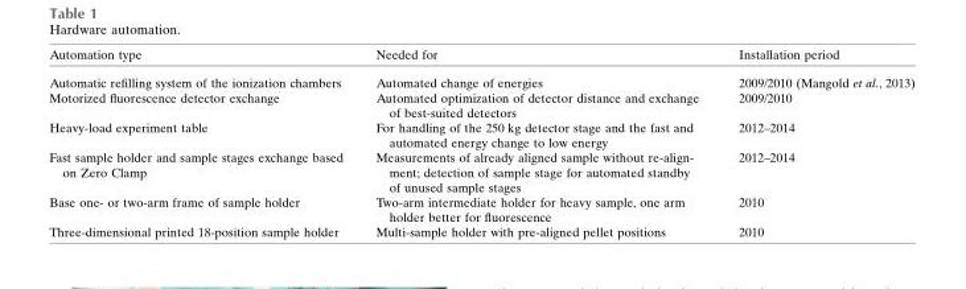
<table><thead><tr><td>Automation type</td><td>Needed for</td><td>Installation period</td></tr></thead><tbody><tr><td>Automatic refilling system of the ionization chambers</td><td>Automated change of energies</td><td>2009/2010 (Mangold et al., 2013)</td></tr><tr><td>Motorized fluorescence detector exchange</td><td>Automated optimization of detector distance and exchange of best-suited detectors</td><td>2009/2010</td></tr><tr><td>Heavy-load experiment table</td><td>For handling of the 250 kg detector stage and the fast and automated energy change to low energy</td><td>2012–2014</td></tr><tr><td>Fast sample holder and sample stages exchange based on Zero Clamp</td><td>Measurements of already aligned sample without re-align- ment; detection of sample stage for automated standby of unused sample stages</td><td>2012–2014</td></tr><tr><td>Base one- or two-arm frame of sample holder</td><td>Two-arm intermediate holder for heavy sample, one arm holder better for fluorescence</td><td>2010</td></tr><tr><td>Three-dimensional printed 18-position sample holder</td><td>Multi-sample holder with pre-aligned pellet positions</td><td>2010</td></tr></tbody></table>